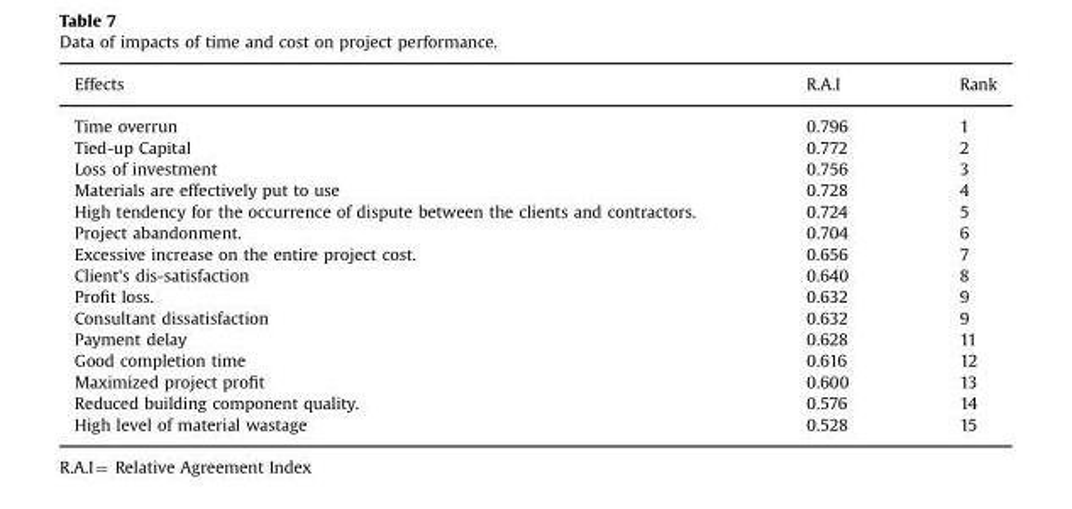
<table><thead><tr><td>Effects</td><td>R.A.I</td><td>Rank</td></tr></thead><tbody><tr><td>Time overrun</td><td>0.796</td><td>1</td></tr><tr><td>Tied-up Capital</td><td>0.772</td><td>2</td></tr><tr><td>Loss of investment</td><td>0.756</td><td>3</td></tr><tr><td>Materials are effectively put to use</td><td>0.728</td><td>4</td></tr><tr><td>High tendency for the occurrence of dispute between the clients and contractors.</td><td>0.724</td><td>5</td></tr><tr><td>Project abandonment.</td><td>0.704</td><td>6</td></tr><tr><td>Excessive increase on the entire project cost.</td><td>0.656</td><td>7</td></tr><tr><td>Client&#x27;s dis-satisfaction</td><td>0.640</td><td>8</td></tr><tr><td>Profit loss.</td><td>0.632</td><td>9</td></tr><tr><td>Consultant dissatisfaction</td><td>0.632</td><td>9</td></tr><tr><td>Payment delay</td><td>0.628</td><td>11</td></tr><tr><td>Good completion time</td><td>0.616</td><td>12</td></tr><tr><td>Maximized project profit</td><td>0.600</td><td>13</td></tr><tr><td>Reduced building component quality.</td><td>0.576</td><td>14</td></tr><tr><td>High level of material wastage</td><td>0.528</td><td>15</td></tr></tbody></table>